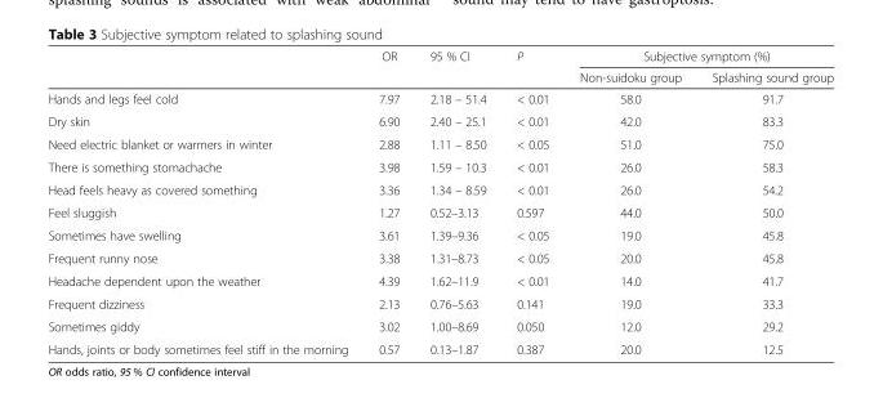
<table><thead><tr><td rowspan="2"></td><td rowspan="2">OR</td><td rowspan="2">95 % CI</td><td rowspan="2">P</td><td colspan="2">Subjective symptom (%)</td></tr><tr><td>Non-suidoku group</td><td>Splashing sound group</td></tr></thead><tbody><tr><td>Hands and legs feel cold</td><td>7.97</td><td>2.18 – 51.4</td><td>&lt; 0.01</td><td>58.0</td><td>91.7</td></tr><tr><td>Dry skin</td><td>6.90</td><td>2.40 – 25.1</td><td>&lt; 0.01</td><td>42.0</td><td>83.3</td></tr><tr><td>Need electric blanket or warmers in winter</td><td>2.88</td><td>1.11 – 8.50</td><td>&lt; 0.05</td><td>51.0</td><td>75.0</td></tr><tr><td>There is something stomachache</td><td>3.98</td><td>1.59 – 10.3</td><td>&lt; 0.01</td><td>26.0</td><td>58.3</td></tr><tr><td>Head feels heavy as covered something</td><td>3.36</td><td>1.34 – 8.59</td><td>&lt; 0.01</td><td>26.0</td><td>54.2</td></tr><tr><td>Feel sluggish</td><td>1.27</td><td>0.52–3.13</td><td>0.597</td><td>44.0</td><td>50.0</td></tr><tr><td>Sometimes have swelling</td><td>3.61</td><td>1.39–9.36</td><td>&lt; 0.05</td><td>19.0</td><td>45.8</td></tr><tr><td>Frequent runny nose</td><td>3.38</td><td>1.31–8.73</td><td>&lt; 0.05</td><td>20.0</td><td>45.8</td></tr><tr><td>Headache dependent upon the weather</td><td>4.39</td><td>1.62–11.9</td><td>&lt; 0.01</td><td>14.0</td><td>41.7</td></tr><tr><td>Frequent dizziness</td><td>2.13</td><td>0.76–5.63</td><td>0.141</td><td>19.0</td><td>33.3</td></tr><tr><td>Sometimes giddy</td><td>3.02</td><td>1.00–8.69</td><td>0.050</td><td>12.0</td><td>29.2</td></tr><tr><td>Hands, joints or body sometimes feel stiff in the morning</td><td>0.57</td><td>0.13–1.87</td><td>0.387</td><td>20.0</td><td>12.5</td></tr></tbody></table>